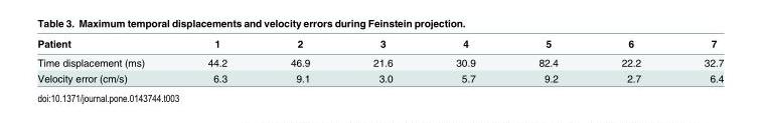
<table><thead><tr><td>Patient</td><td>1</td><td>2</td><td>3</td><td>4</td><td>5</td><td>6</td><td>7</td></tr></thead><tbody><tr><td>Time displacement (ms)</td><td>44.2</td><td>46.9</td><td>21.6</td><td>30.9</td><td>82.4</td><td>22.2</td><td>32.7</td></tr><tr><td>Velocity error (cm/s)</td><td>6.3</td><td>9.1</td><td>3.0</td><td>5.7</td><td>9.2</td><td>2.7</td><td>6.4</td></tr></tbody></table>